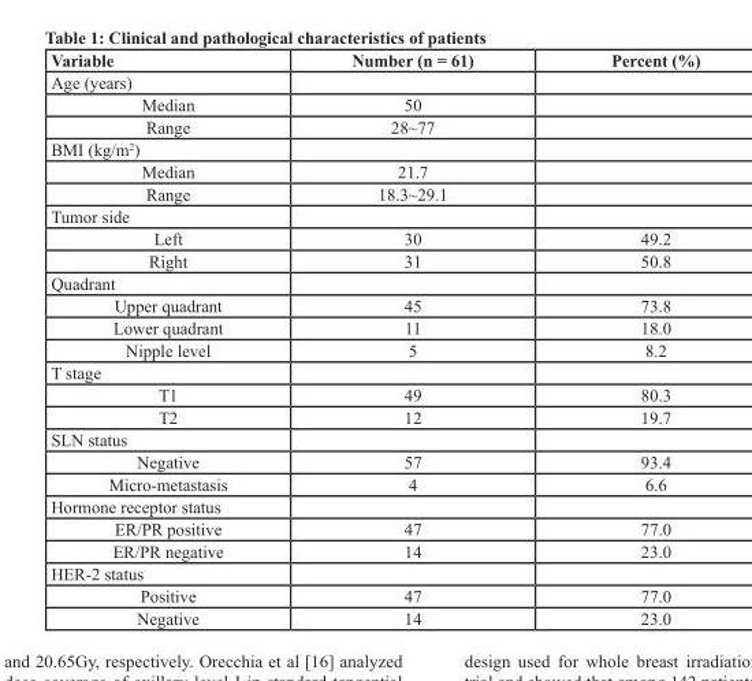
<table><thead><tr><td>Variable</td><td>Number (n = 61)</td><td>Percent (%)</td></tr></thead><tbody><tr><td colspan="3">Age (years)</td></tr><tr><td>Median</td><td>50</td><td></td></tr><tr><td>Range</td><td>28~77</td><td></td></tr><tr><td colspan="3">BMI (kg/m<sup>2</sup>)</td></tr><tr><td>Median</td><td>21.7</td><td></td></tr><tr><td>Range</td><td>18.3~29.1</td><td></td></tr><tr><td colspan="3">Tumor side</td></tr><tr><td>Left</td><td>30</td><td>49.2</td></tr><tr><td>Right</td><td>31</td><td>50.8</td></tr><tr><td colspan="3">Quadrant</td></tr><tr><td>Upper quadrant</td><td>45</td><td>73.8</td></tr><tr><td>Lower quadrant</td><td>11</td><td>18.0</td></tr><tr><td>Nipple level</td><td>5</td><td>8.2</td></tr><tr><td colspan="3">T stage</td></tr><tr><td>T1</td><td>49</td><td>80.3</td></tr><tr><td>T2</td><td>12</td><td>19.7</td></tr><tr><td colspan="3">SLN status</td></tr><tr><td>Negative</td><td>57</td><td>93.4</td></tr><tr><td>Micro-metastasis</td><td>4</td><td>6.6</td></tr><tr><td colspan="3">Hormone receptor status</td></tr><tr><td>ER/PR positive</td><td>47</td><td>77.0</td></tr><tr><td>ER/PR negative</td><td>14</td><td>23.0</td></tr><tr><td colspan="3">HER-2 status</td></tr><tr><td>Positive</td><td>47</td><td>77.0</td></tr><tr><td>Negative</td><td>14</td><td>23.0</td></tr></tbody></table>